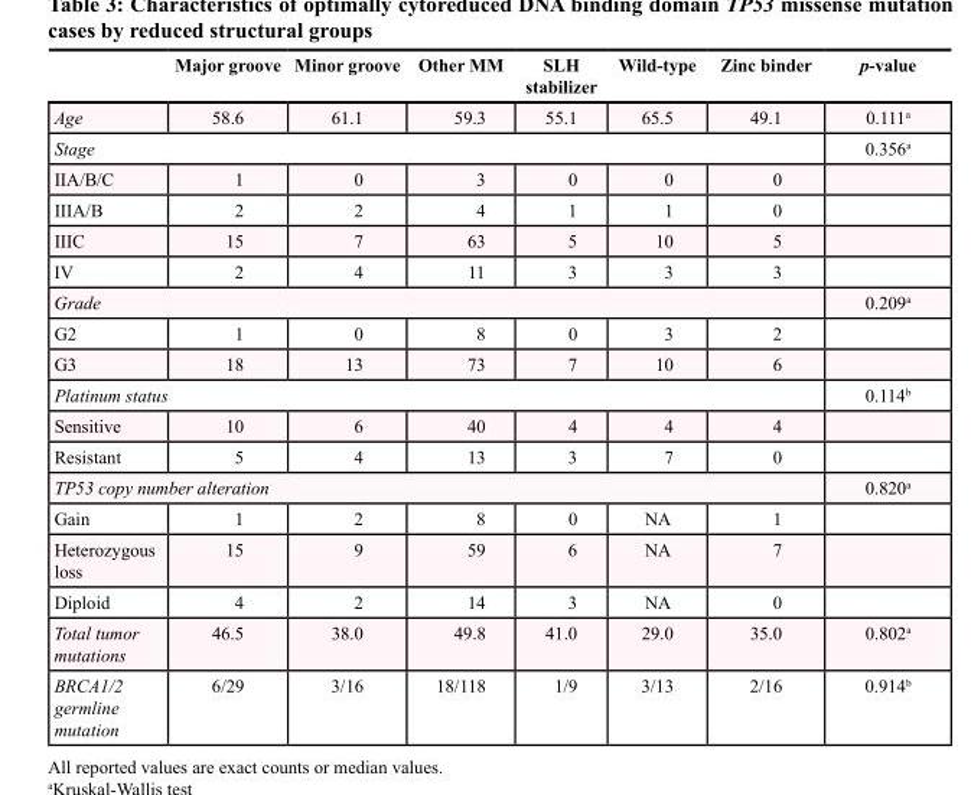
<table><thead><tr><td></td><td>Major groove</td><td>Minor groove</td><td>Other MM</td><td>SLH stabilizer</td><td>Wild-type</td><td>Zinc binder</td><td>p-value</td></tr></thead><tbody><tr><td>Age</td><td>58.6</td><td>61.1</td><td>59.3</td><td>55.1</td><td>65.5</td><td>49.1</td><td>0.111<sup>a</sup></td></tr><tr><td colspan="7">Stage</td><td>0.356<sup>a</sup></td></tr><tr><td>IIA/B/C</td><td>1</td><td>0</td><td>3</td><td>0</td><td>0</td><td>0</td><td></td></tr><tr><td>IIIA/B</td><td>2</td><td>2</td><td>4</td><td>1</td><td>1</td><td>0</td><td></td></tr><tr><td>IIIC</td><td>15</td><td>7</td><td>63</td><td>5</td><td>10</td><td>5</td><td></td></tr><tr><td>IV</td><td>2</td><td>4</td><td>11</td><td>3</td><td>3</td><td>3</td><td></td></tr><tr><td colspan="7">Grade</td><td>0.209<sup>a</sup></td></tr><tr><td>G2</td><td>1</td><td>0</td><td>8</td><td>0</td><td>3</td><td>2</td><td></td></tr><tr><td>G3</td><td>18</td><td>13</td><td>73</td><td>7</td><td>10</td><td>6</td><td></td></tr><tr><td colspan="7">Platinum status</td><td>0.114<sup>b</sup></td></tr><tr><td>Sensitive</td><td>10</td><td>6</td><td>40</td><td>4</td><td>4</td><td>4</td><td></td></tr><tr><td>Resistant</td><td>5</td><td>4</td><td>13</td><td>3</td><td>7</td><td>0</td><td></td></tr><tr><td colspan="7">TP53 copy number alteration</td><td>0.820<sup>a</sup></td></tr><tr><td>Gain</td><td>1</td><td>2</td><td>8</td><td>0</td><td>NA</td><td>1</td><td></td></tr><tr><td>Heterozygous loss</td><td>15</td><td>9</td><td>59</td><td>6</td><td>NA</td><td>7</td><td></td></tr><tr><td>Diploid</td><td>4</td><td>2</td><td>14</td><td>3</td><td>NA</td><td>0</td><td></td></tr><tr><td>Total tumor mutations</td><td>46.5</td><td>38.0</td><td>49.8</td><td>41.0</td><td>29.0</td><td>35.0</td><td>0.802<sup>a</sup></td></tr><tr><td>BRCA1/2 germline mutation</td><td>6/29</td><td>3/16</td><td>18/118</td><td>1/9</td><td>3/13</td><td>2/16</td><td>0.914<sup>b</sup></td></tr></tbody></table>